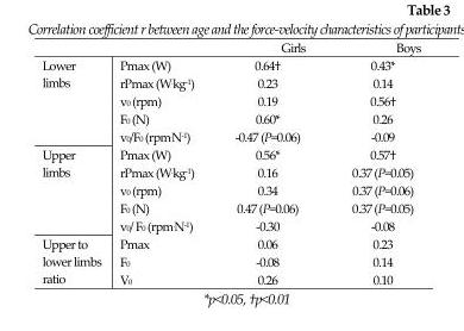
<table><thead><tr><td></td><td></td><td>Girls</td><td>Boys</td></tr></thead><tbody><tr><td rowspan="5">Lower limbs</td><td>Pmax (W)</td><td>0.64<sup>†</sup></td><td>0.43*</td></tr><tr><td>rPmax (W.kg-1)</td><td>0.23</td><td>0.14</td></tr><tr><td>v<sub>0</sub> (rpm)</td><td>0.19</td><td>0.56<sup>†</sup></td></tr><tr><td>F<sub>0</sub> (N)</td><td>0.60*</td><td>0.26</td></tr><tr><td>v0/F0 (rpm.N-1)</td><td>-0.47 (P=0.06)</td><td>-0.09</td></tr><tr><td rowspan="5">Upper limbs</td><td>Pmax (W)</td><td>0.56*</td><td>0.57<sup>†</sup></td></tr><tr><td>rPmax (W.kg-1)</td><td>0.16</td><td>0.37 (P=0.05)</td></tr><tr><td>v<sub>0</sub> (rpm)</td><td>0.34</td><td>0.37 (P=0.06)</td></tr><tr><td>F<sub>0</sub> (N)</td><td>0.47 (P=0.06)</td><td>0.37 (P=0.05)</td></tr><tr><td>v0/ F0 (rpm.N-1)</td><td>-0.30</td><td>-0.08</td></tr><tr><td rowspan="3">Upper to lower limbs ratio</td><td>Pmax</td><td>0.06</td><td>0.23</td></tr><tr><td>F<sub>0</sub></td><td>-0.08</td><td>0.14</td></tr><tr><td>V<sub>0</sub></td><td>0.26</td><td>0.10</td></tr></tbody></table>